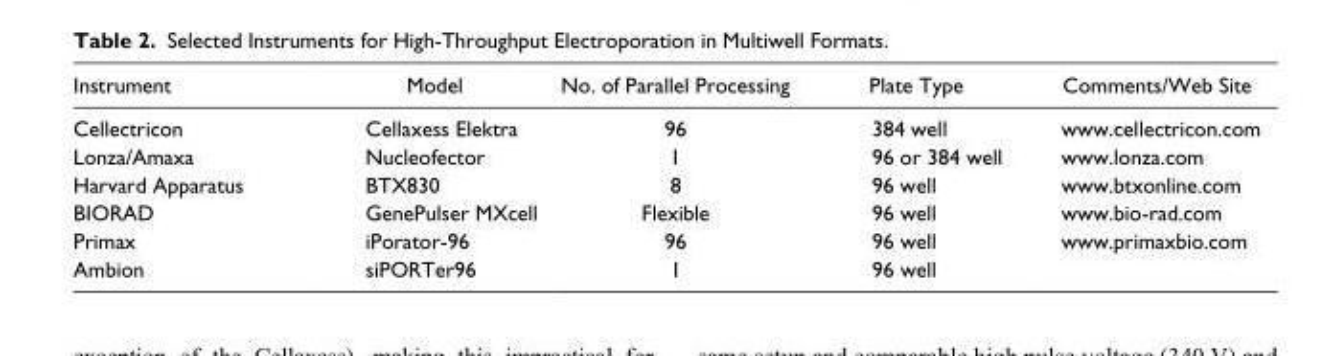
<table><thead><tr><td>Instrument</td><td>Model</td><td>No. of Parallel Processing</td><td>Plate Type</td><td>Comments/Web Site</td></tr></thead><tbody><tr><td>Cellectricon</td><td>Cellaxess Elektra</td><td>96</td><td>384 well</td><td>www.cellectricon.com</td></tr><tr><td>Lonza/Amaxa</td><td>Nucleofector</td><td>1</td><td>96 or 384 well</td><td>www.lonza.com</td></tr><tr><td>Harvard Apparatus</td><td>BTX830</td><td>8</td><td>96 well</td><td>www.btxonline.com</td></tr><tr><td>BIORAD</td><td>GenePulser MXcell</td><td>Flexible</td><td>96 well</td><td>www.bio-rad.com</td></tr><tr><td>Primax</td><td>iPorator-96</td><td>96</td><td>96 well</td><td>www.primaxbio.com</td></tr><tr><td>Ambion</td><td>siPORTer96</td><td>1</td><td>96 well</td><td></td></tr></tbody></table>